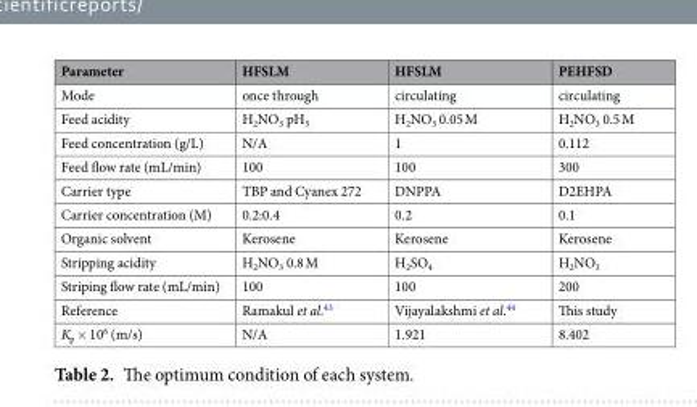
<table><thead><tr><td>Parameter</td><td>HFSLM</td><td>HFSLM</td><td>PEHFSD</td></tr></thead><tbody><tr><td>Mode</td><td>once through</td><td>circulating</td><td>circulating</td></tr><tr><td>Feed acidity</td><td>H<sub>2</sub>NO<sub>3</sub> pH<sub>5</sub></td><td>H<sub>2</sub>NO<sub>3</sub> 0.05 M</td><td>H<sub>2</sub>NO<sub>3</sub> 0.5 M</td></tr><tr><td>Feed concentration (g/L)</td><td>N/A</td><td>1</td><td>0.112</td></tr><tr><td>Feed flow rate (mL/min)</td><td>100</td><td>100</td><td>300</td></tr><tr><td>Carrier type</td><td>TBP and Cyanex 272</td><td>DNPPA</td><td>D2EHPA</td></tr><tr><td>Carrier concentration (M)</td><td>0.2:0.4</td><td>0.2</td><td>0.1</td></tr><tr><td>Organic solvent</td><td>Kerosene</td><td>Kerosene</td><td>Kerosene</td></tr><tr><td>Stripping acidity</td><td>H<sub>2</sub>NO<sub>3</sub> 0.8 M</td><td>H<sub>2</sub>SO<sub>4</sub></td><td>H<sub>2</sub>NO<sub>3</sub></td></tr><tr><td>Striping flow rate (mL/min)</td><td>100</td><td>100</td><td>200</td></tr><tr><td>Reference</td><td>Ramakul et al.<sup>43</sup></td><td>Vijayalakshmi et al.<sup>44</sup></td><td>This study</td></tr><tr><td>K<sub>p</sub> × 10<sup>6</sup> (m/s)</td><td>N/A</td><td>1.921</td><td>8.402</td></tr></tbody></table>